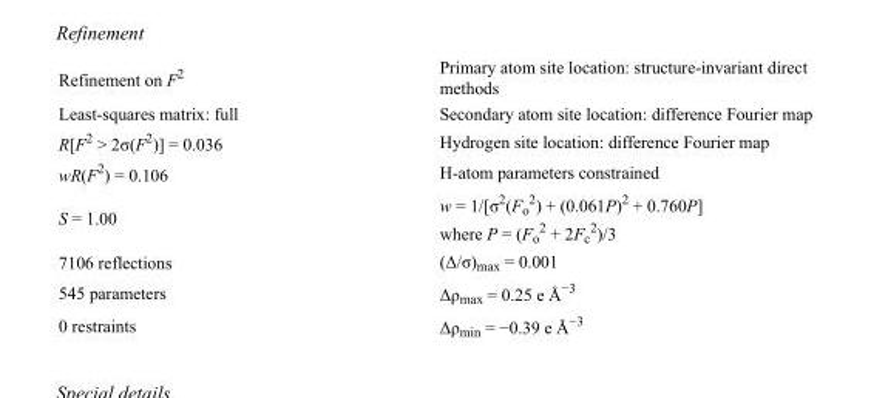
<table><tbody><tr><td>Refinement on F<sup>2</sup></td><td>Primary atom site location: structure-invariant direct methods</td></tr><tr><td>Least-squares matrix: full</td><td>Secondary atom site location: difference Fourier map</td></tr><tr><td>R[F<sup>2</sup> &gt; 2σ(F<sup>2</sup>)] = 0.036</td><td>Hydrogen site location: difference Fourier map</td></tr><tr><td>wR(F<sup>2</sup>) = 0.106</td><td>H-atom parameters constrained</td></tr><tr><td>S = 1.00</td><td>w = 1/[σ<sup>2</sup>(F<sub>o</sub> <sup>2</sup>) + (0.061P)<sup>2</sup> + 0.760P] where P = (F<sub>o</sub> <sup>2</sup> + 2F<sub>c</sub> <sup>2</sup>)/3</td></tr><tr><td>7106 reflections</td><td>(Δ/σ)<sub>max</sub> = 0.001</td></tr><tr><td>545 parameters</td><td>Δρ<sub>max</sub> = 0.25 e Å<sup>−3</sup></td></tr><tr><td>0 restraints</td><td>Δρ<sub>min</sub> = −0.39 e Å<sup>−3</sup></td></tr></tbody></table>